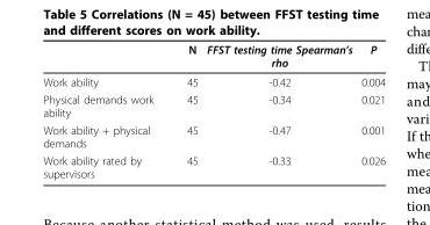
<table><thead><tr><td></td><td>N</td><td>FFST testing time Spearman’s rho</td><td>P</td></tr></thead><tbody><tr><td>Work ability</td><td>45</td><td>-0.42</td><td>0.004</td></tr><tr><td>Physical demands work ability</td><td>45</td><td>-0.34</td><td>0.021</td></tr><tr><td>Work ability + physical demands</td><td>45</td><td>-0.47</td><td>0.001</td></tr><tr><td>Work ability rated by supervisors</td><td>45</td><td>-0.33</td><td>0.026</td></tr></tbody></table>